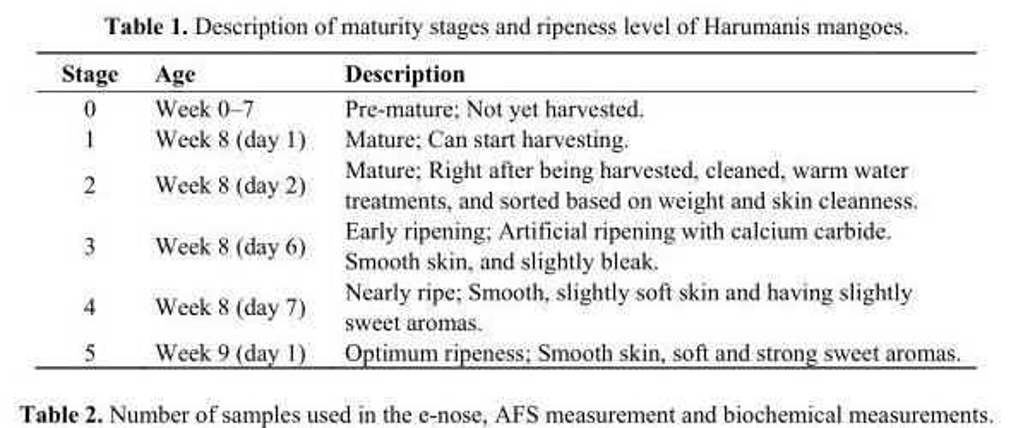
<table><thead><tr><td>Stage</td><td>Age</td><td>Description</td></tr></thead><tbody><tr><td>0</td><td>Week 0–7</td><td>Pre-mature; Not yet harvested.</td></tr><tr><td>1</td><td>Week 8 (day 1)</td><td>Mature; Can start harvesting.</td></tr><tr><td>2</td><td>Week 8 (day 2)</td><td>Mature; Right after being harvested, cleaned, warm water treatments, and sorted based on weight and skin cleanness.</td></tr><tr><td>3</td><td>Week 8 (day 6)</td><td>Early ripening; Artificial ripening with calcium carbide. Smooth skin, and slightly bleak.</td></tr><tr><td>4</td><td>Week 8 (day 7)</td><td>Nearly ripe; Smooth, slightly soft skin and having slightly sweet aromas.</td></tr><tr><td>5</td><td>Week 9 (day 1)</td><td>Optimum ripeness; Smooth skin, soft and strong sweet aromas.</td></tr></tbody></table>